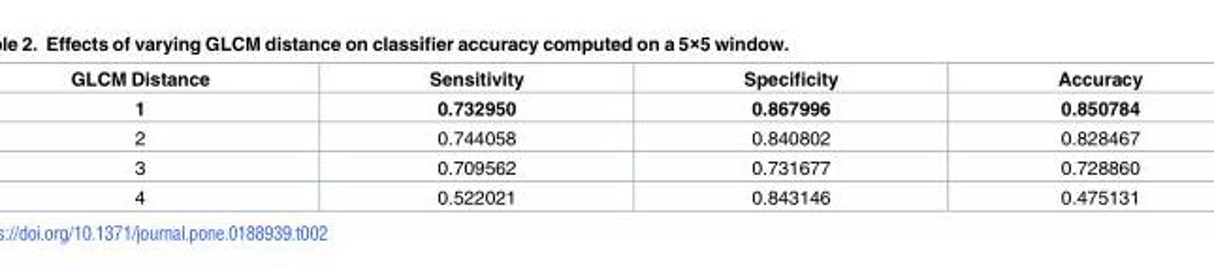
<table><thead><tr><td>GLCM Distance</td><td>Sensitivity</td><td>Specificity</td><td>Accuracy</td></tr></thead><tbody><tr><td>1</td><td>0.732950</td><td>0.867996</td><td>0.850784</td></tr><tr><td>2</td><td>0.744058</td><td>0.840802</td><td>0.828467</td></tr><tr><td>3</td><td>0.709562</td><td>0.731677</td><td>0.728860</td></tr><tr><td>4</td><td>0.522021</td><td>0.843146</td><td>0.475131</td></tr></tbody></table>